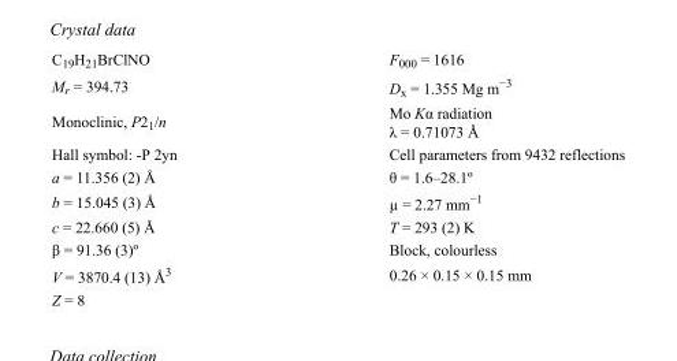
<table><tbody><tr><td>C<sub>19</sub>H<sub>21</sub>BrClNO</td><td>F<sub>000</sub> = 1616</td></tr><tr><td>M<sub>r</sub> = 394.73</td><td>D<sub>x</sub> = 1.355 Mg m<sup>−3</sup></td></tr><tr><td>Monoclinic, P2<sub>1</sub>/n</td><td>Mo Kα radiation λ = 0.71073 Å</td></tr><tr><td>Hall symbol: -P 2yn</td><td>Cell parameters from 9432 reflections</td></tr><tr><td>a = 11.356 (2) Å</td><td>θ = 1.6–28.1º</td></tr><tr><td>b = 15.045 (3) Å</td><td>µ = 2.27 mm<sup>−1</sup></td></tr><tr><td>c = 22.660 (5) Å</td><td>T = 293 (2) K</td></tr><tr><td>β = 91.36 (3)º</td><td>Block, colourless</td></tr><tr><td>V = 3870.4 (13) Å<sup>3</sup></td><td>0.26 × 0.15 × 0.15 mm</td></tr><tr><td>Z = 8</td><td></td></tr></tbody></table>